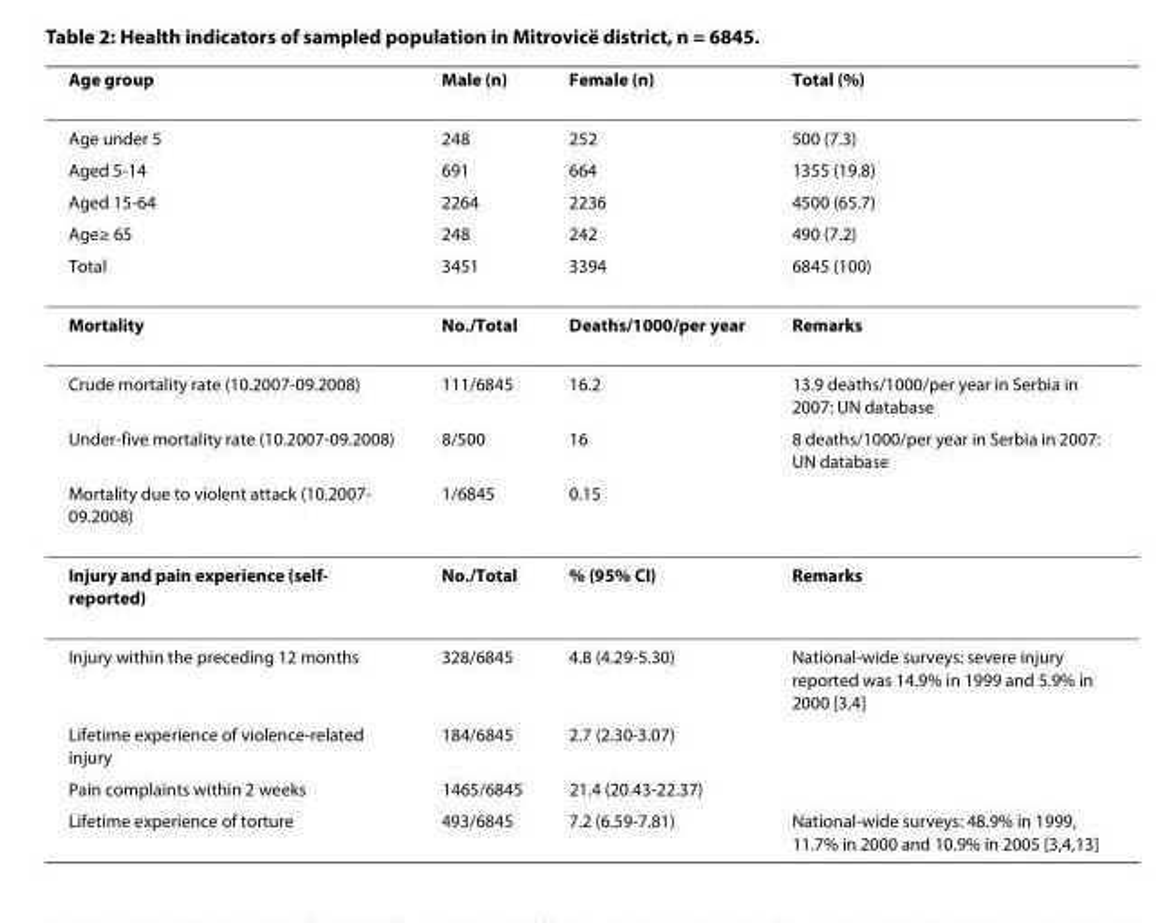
<table><thead><tr><td>Age group</td><td>Male (n)</td><td>Female (n)</td><td>Total (%)</td></tr></thead><tbody><tr><td>Age under 5</td><td>248</td><td>252</td><td>500 (7.3)</td></tr><tr><td>Aged 5-14</td><td>691</td><td>664</td><td>1355 (19.8)</td></tr><tr><td>Aged 15-64</td><td>2264</td><td>2236</td><td>4500 (65.7)</td></tr><tr><td>Age≥ 65</td><td>248</td><td>242</td><td>490 (7.2)</td></tr><tr><td>Total</td><td>3451</td><td>3394</td><td>6845 (100)</td></tr><tr><td>Mortality</td><td>No./Total</td><td>Deaths/1000/per year</td><td>Remarks</td></tr><tr><td>Crude mortality rate (10.2007-09.2008)</td><td>111/6845</td><td>16.2</td><td>13.9 deaths/1000/per year in Serbia in 2007: UN database</td></tr><tr><td>Under-five mortality rate (10.2007-09.2008)</td><td>8/500</td><td>16</td><td>8 deaths/1000/per year in Serbia in 2007: UN database</td></tr><tr><td>Mortality due to violent attack (10.2007- 09.2008)</td><td>1/6845</td><td>0.15</td><td></td></tr><tr><td>Injury and pain experience (self- reported)</td><td>No./Total</td><td>% (95% CI)</td><td>Remarks</td></tr><tr><td>Injury within the preceding 12 months</td><td>328/6845</td><td>4.8 (4.29-5.30)</td><td>National-wide surveys: severe injury reported was 14.9% in 1999 and 5.9% in 2000 [3,4]</td></tr><tr><td>Lifetime experience of violence-related injury</td><td>184/6845</td><td>2.7 (2.30-3.07)</td><td></td></tr><tr><td>Pain complaints within 2 weeks</td><td>1465/6845</td><td>21.4 (20.43-22.37)</td><td></td></tr><tr><td>Lifetime experience of torture</td><td>493/6845</td><td>7.2 (6.59-7.81)</td><td>National-wide surveys: 48.9% in 1999, 11.7% in 2000 and 10.9% in 2005 [3,4,13]</td></tr></tbody></table>